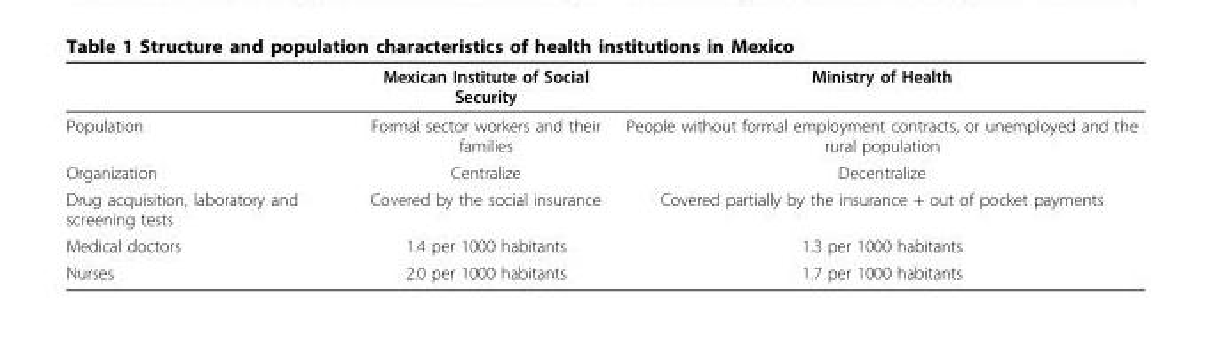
<table><thead><tr><td></td><td>Mexican Institute of Social Security</td><td>Ministry of Health</td></tr></thead><tbody><tr><td>Population</td><td>Formal sector workers and their families</td><td>People without formal employment contracts, or unemployed and the rural population</td></tr><tr><td>Organization</td><td>Centralize</td><td>Decentralize</td></tr><tr><td>Drug acquisition, laboratory and screening tests</td><td>Covered by the social insurance</td><td>Covered partially by the insurance + out of pocket payments</td></tr><tr><td>Medical doctors</td><td>1.4 per 1000 habitants</td><td>1.3 per 1000 habitants</td></tr><tr><td>Nurses</td><td>2.0 per 1000 habitants</td><td>1.7 per 1000 habitants</td></tr></tbody></table>